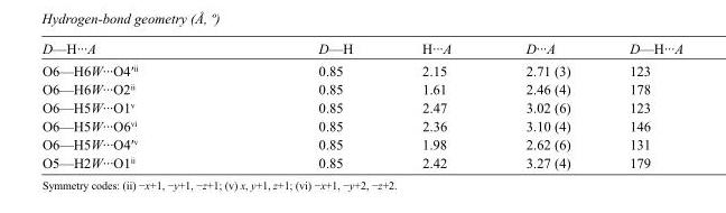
<table><tbody><tr><td>D—H···A</td><td>D—H</td><td>H···A</td><td>D···A</td><td>D—H···A</td></tr><tr><td>O6—H6W···O4′<sup>ii</sup></td><td>0.85</td><td>2.15</td><td>2.71 (3)</td><td>123</td></tr><tr><td>O6—H6W···O2<sup>ii</sup></td><td>0.85</td><td>1.61</td><td>2.46 (4)</td><td>178</td></tr><tr><td>O6—H5W···O1<sup>v</sup></td><td>0.85</td><td>2.47</td><td>3.02 (6)</td><td>123</td></tr><tr><td>O6—H5W···O6<sup>vi</sup></td><td>0.85</td><td>2.36</td><td>3.10 (4)</td><td>146</td></tr><tr><td>O6—H5W···O4′<sup>v</sup></td><td>0.85</td><td>1.98</td><td>2.62 (6)</td><td>131</td></tr><tr><td>O5—H2W···O1<sup>ii</sup></td><td>0.85</td><td>2.42</td><td>3.27 (4)</td><td>179</td></tr></tbody></table>